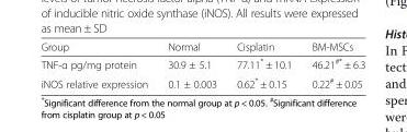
<table><thead><tr><td>Group</td><td>Normal</td><td>Cisplatin</td><td>BM-MSCs</td></tr></thead><tbody><tr><td>TNF-α pg/mg protein</td><td>30.9 ± 5.1</td><td>77.11* ± 10.1</td><td>46.21<sup>#*</sup> ± 6.3</td></tr><tr><td>iNOS relative expression</td><td>0.1 ± 0.003</td><td>0.62* ± 0.15</td><td>0.22<sup>#</sup> ± 0.05</td></tr></tbody></table>